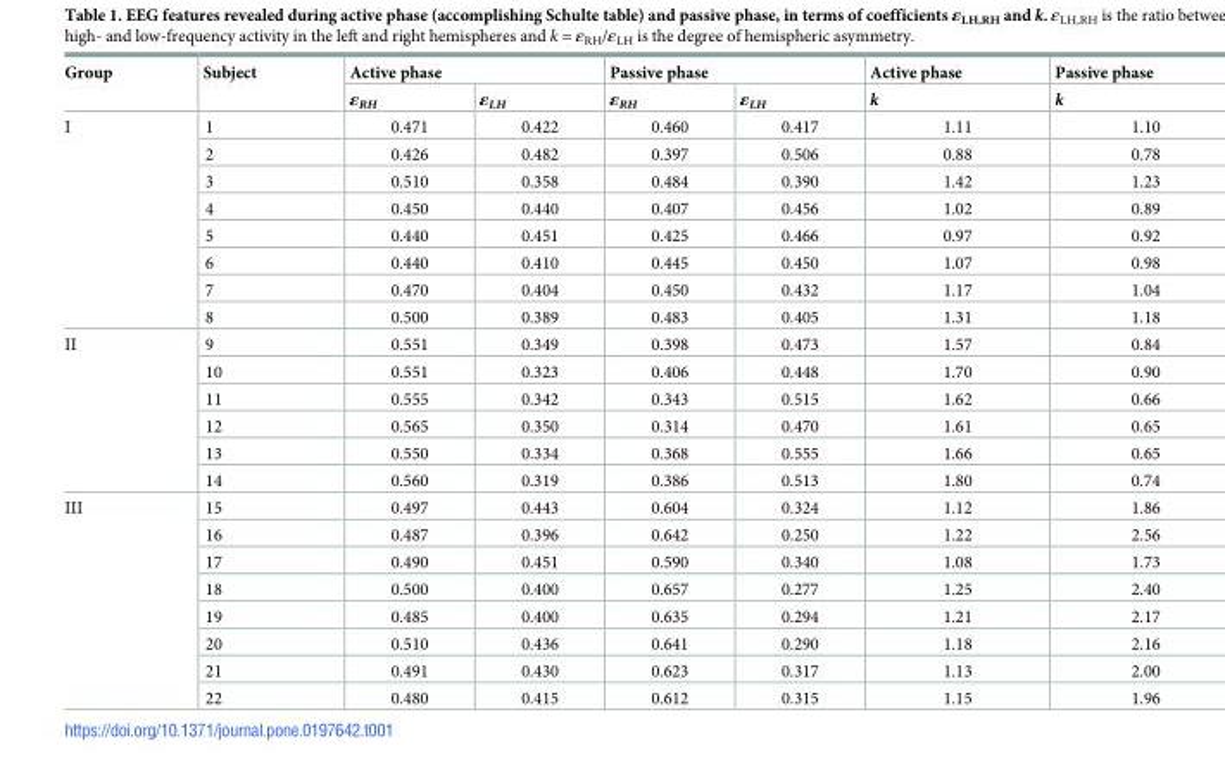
<table><thead><tr><td rowspan="2">Group</td><td rowspan="2">Subject</td><td colspan="2">Active phase</td><td colspan="2">Passive phase</td><td rowspan="2">Active phase k</td><td rowspan="2">Passive phase k</td></tr><tr><td>ε<sub>RH</sub></td><td>ε<sub>LH</sub></td><td>ε<sub>RH</sub></td><td>ε<sub>LH</sub></td></tr></thead><tbody><tr><td rowspan="8">I</td><td>1</td><td>0.471</td><td>0.422</td><td>0.460</td><td>0.417</td><td>1.11</td><td>1.10</td></tr><tr><td>2</td><td>0.426</td><td>0.482</td><td>0.397</td><td>0.506</td><td>0.88</td><td>0.78</td></tr><tr><td>3</td><td>0.510</td><td>0.358</td><td>0.484</td><td>0.390</td><td>1.42</td><td>1.23</td></tr><tr><td>4</td><td>0.450</td><td>0.440</td><td>0.407</td><td>0.456</td><td>1.02</td><td>0.89</td></tr><tr><td>5</td><td>0.440</td><td>0.451</td><td>0.425</td><td>0.466</td><td>0.97</td><td>0.92</td></tr><tr><td>6</td><td>0.440</td><td>0.410</td><td>0.445</td><td>0.450</td><td>1.07</td><td>0.98</td></tr><tr><td>7</td><td>0.470</td><td>0.404</td><td>0.450</td><td>0.432</td><td>1.17</td><td>1.04</td></tr><tr><td>8</td><td>0.500</td><td>0.389</td><td>0.483</td><td>0.405</td><td>1.31</td><td>1.18</td></tr><tr><td rowspan="6">II</td><td>9</td><td>0.551</td><td>0.349</td><td>0.398</td><td>0.473</td><td>1.57</td><td>0.84</td></tr><tr><td>10</td><td>0.551</td><td>0.323</td><td>0.406</td><td>0.448</td><td>1.70</td><td>0.90</td></tr><tr><td>11</td><td>0.555</td><td>0.342</td><td>0.343</td><td>0.515</td><td>1.62</td><td>0.66</td></tr><tr><td>12</td><td>0.565</td><td>0.350</td><td>0.314</td><td>0.470</td><td>1.61</td><td>0.65</td></tr><tr><td>13</td><td>0.550</td><td>0.334</td><td>0.368</td><td>0.555</td><td>1.66</td><td>0.65</td></tr><tr><td>14</td><td>0.560</td><td>0.319</td><td>0.386</td><td>0.513</td><td>1.80</td><td>0.74</td></tr><tr><td rowspan="8">III</td><td>15</td><td>0.497</td><td>0.443</td><td>0.604</td><td>0.324</td><td>1.12</td><td>1.86</td></tr><tr><td>16</td><td>0.487</td><td>0.396</td><td>0.642</td><td>0.250</td><td>1.22</td><td>2.56</td></tr><tr><td>17</td><td>0.490</td><td>0.451</td><td>0.590</td><td>0.340</td><td>1.08</td><td>1.73</td></tr><tr><td>18</td><td>0.500</td><td>0.400</td><td>0.657</td><td>0.277</td><td>1.25</td><td>2.40</td></tr><tr><td>19</td><td>0.485</td><td>0.400</td><td>0.635</td><td>0.294</td><td>1.21</td><td>2.17</td></tr><tr><td>20</td><td>0.510</td><td>0.436</td><td>0.641</td><td>0.290</td><td>1.18</td><td>2.16</td></tr><tr><td>21</td><td>0.491</td><td>0.430</td><td>0.623</td><td>0.317</td><td>1.13</td><td>2.00</td></tr><tr><td>22</td><td>0.480</td><td>0.415</td><td>0.612</td><td>0.315</td><td>1.15</td><td>1.96</td></tr></tbody></table>